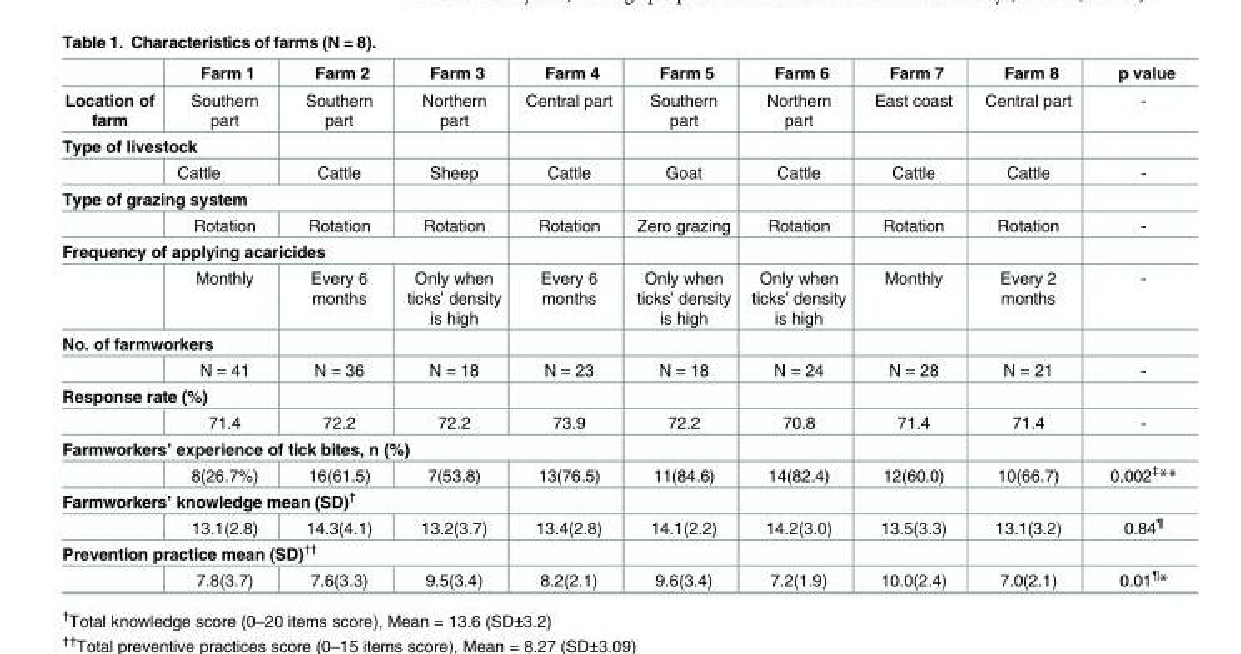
<table><thead><tr><td></td><td>Farm 1</td><td>Farm 2</td><td>Farm 3</td><td>Farm 4</td><td>Farm 5</td><td>Farm 6</td><td>Farm 7</td><td>Farm 8</td><td>p value</td></tr></thead><tbody><tr><td>Location of farm</td><td>Southern part</td><td>Southern part</td><td>Northern part</td><td>Central part</td><td>Southern part</td><td>Northern part</td><td>East coast</td><td>Central part</td><td>-</td></tr><tr><td colspan="10">Type of livestock</td></tr><tr><td></td><td>Cattle</td><td>Cattle</td><td>Sheep</td><td>Cattle</td><td>Goat</td><td>Cattle</td><td>Cattle</td><td>Cattle</td><td>-</td></tr><tr><td colspan="10">Type of grazing system</td></tr><tr><td></td><td>Rotation</td><td>Rotation</td><td>Rotation</td><td>Rotation</td><td>Zero grazing</td><td>Rotation</td><td>Rotation</td><td>Rotation</td><td>-</td></tr><tr><td colspan="10">Frequency of applying acaricides</td></tr><tr><td></td><td>Monthly</td><td>Every 6 months</td><td>Only when ticks’ density is high</td><td>Every 6 months</td><td>Only when ticks’ density is high</td><td>Only when ticks’ density is high</td><td>Monthly</td><td>Every 2 months</td><td>-</td></tr><tr><td colspan="10">No. of farmworkers</td></tr><tr><td></td><td>N = 41</td><td>N = 36</td><td>N = 18</td><td>N = 23</td><td>N = 18</td><td>N = 24</td><td>N = 28</td><td>N = 21</td><td>-</td></tr><tr><td colspan="10">Response rate (%)</td></tr><tr><td></td><td>71.4</td><td>72.2</td><td>72.2</td><td>73.9</td><td>72.2</td><td>70.8</td><td>71.4</td><td>71.4</td><td>-</td></tr><tr><td colspan="10">Farmworkers’ experience of tick bites, n (%)</td></tr><tr><td></td><td>8(26.7%)</td><td>16(61.5)</td><td>7(53.8)</td><td>13(76.5)</td><td>11(84.6)</td><td>14(82.4)</td><td>12(60.0)</td><td>10(66.7)</td><td>0.002<sup>‡</sup>**</td></tr><tr><td colspan="10">Farmworkers’ knowledge mean (SD)<sup>†</sup></td></tr><tr><td></td><td>13.1(2.8)</td><td>14.3(4.1)</td><td>13.2(3.7)</td><td>13.4(2.8)</td><td>14.1(2.2)</td><td>14.2(3.0)</td><td>13.5(3.3)</td><td>13.1(3.2)</td><td>0.84<sup>¶</sup></td></tr><tr><td colspan="10">Prevention practice mean (SD)<sup>††</sup></td></tr><tr><td></td><td>7.8(3.7)</td><td>7.6(3.3)</td><td>9.5(3.4)</td><td>8.2(2.1)</td><td>9.6(3.4)</td><td>7.2(1.9)</td><td>10.0(2.4)</td><td>7.0(2.1)</td><td>0.01<sup>¶</sup>*</td></tr></tbody></table>